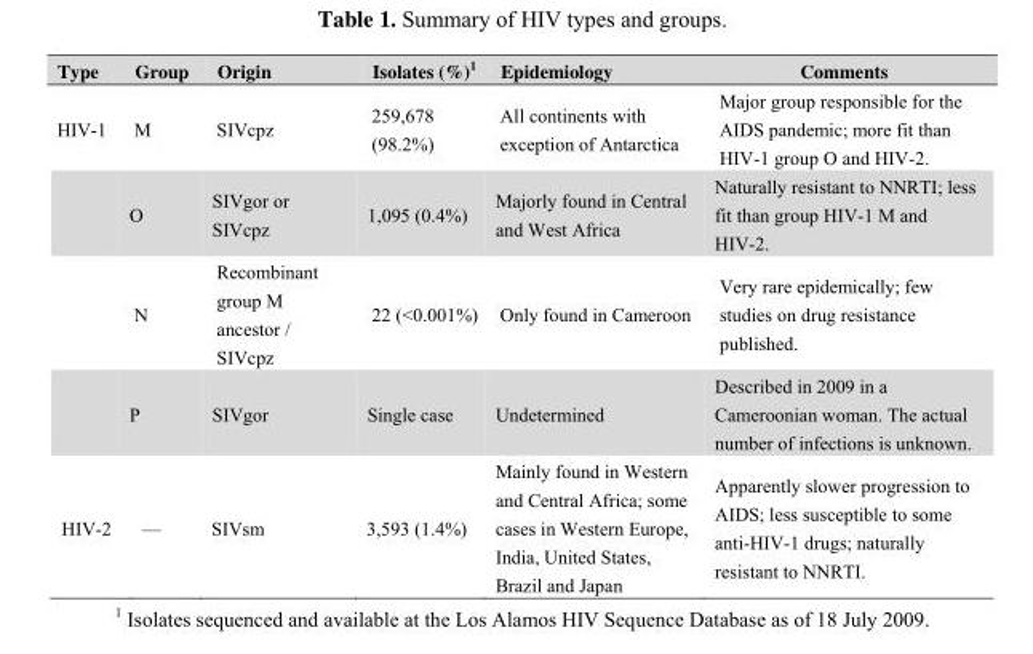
<table><thead><tr><td>Type</td><td>Group</td><td>Origin</td><td>Isolates (%)<sup>1</sup></td><td>Epidemiology</td><td>Comments</td></tr></thead><tbody><tr><td rowspan="4">HIV-1</td><td>M</td><td>SIVcpz</td><td>259,678 (98.2%)</td><td>All continents with exception of Antarctica</td><td>Major group responsible for the AIDS pandemic; more fit than HIV-1 group O and HIV-2.</td></tr><tr><td>O</td><td>SIVgor or SIVcpz</td><td>1,095 (0.4%)</td><td>Majorly found in Central and West Africa</td><td>Naturally resistant to NNRTI; less fit than group HIV-1 M and HIV-2.</td></tr><tr><td>N</td><td>Recombinant group M ancestor / SIVcpz</td><td>22 (&lt;0.001%)</td><td>Only found in Cameroon</td><td>Very rare epidemically; few studies on drug resistance published.</td></tr><tr><td>P</td><td>SIVgor</td><td>Single case</td><td>Undetermined</td><td>Described in 2009 in a Cameroonian woman. The actual number of infections is unknown.</td></tr><tr><td>HIV-2</td><td>—</td><td>SIVsm</td><td>3,593 (1.4%)</td><td>Mainly found in Western and Central Africa; some cases in Western Europe, India, United States, Brazil and Japan</td><td>Apparently slower progression to AIDS; less susceptible to some anti-HIV-1 drugs; naturally resistant to NNRTI.</td></tr></tbody></table>